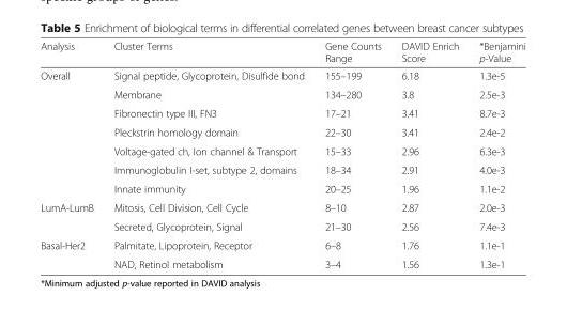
<table><thead><tr><td>Analysis</td><td>Cluster Terms</td><td>Gene Counts Range</td><td>DAVID Enrich Score</td><td>*Benjamini p-Value</td></tr></thead><tbody><tr><td rowspan="7">Overall</td><td>Signal peptide, Glycoprotein, Disulfide bond</td><td>155–199</td><td>6.18</td><td>1.3e-5</td></tr><tr><td>Membrane</td><td>134–280</td><td>3.8</td><td>2.5e-3</td></tr><tr><td>Fibronectin type III, FN3</td><td>17–21</td><td>3.41</td><td>8.7e-3</td></tr><tr><td>Pleckstrin homology domain</td><td>22–30</td><td>3.41</td><td>2.4e-2</td></tr><tr><td>Voltage-gated ch, Ion channel &amp; Transport</td><td>15–33</td><td>2.96</td><td>6.3e-3</td></tr><tr><td>Immunoglobulin I-set, subtype 2, domains</td><td>18–34</td><td>2.91</td><td>4.0e-3</td></tr><tr><td>Innate immunity</td><td>20–25</td><td>1.96</td><td>1.1e-2</td></tr><tr><td rowspan="2">LumA-LumB</td><td>Mitosis, Cell Division, Cell Cycle</td><td>8–10</td><td>2.87</td><td>2.0e-3</td></tr><tr><td>Secreted, Glycoprotein, Signal</td><td>21–30</td><td>2.56</td><td>7.4e-3</td></tr><tr><td rowspan="2">Basal-Her2</td><td>Palmitate, Lipoprotein, Receptor</td><td>6–8</td><td>1.76</td><td>1.1e-1</td></tr><tr><td>NAD, Retinol metabolism</td><td>3–4</td><td>1.56</td><td>1.3e-1</td></tr></tbody></table>